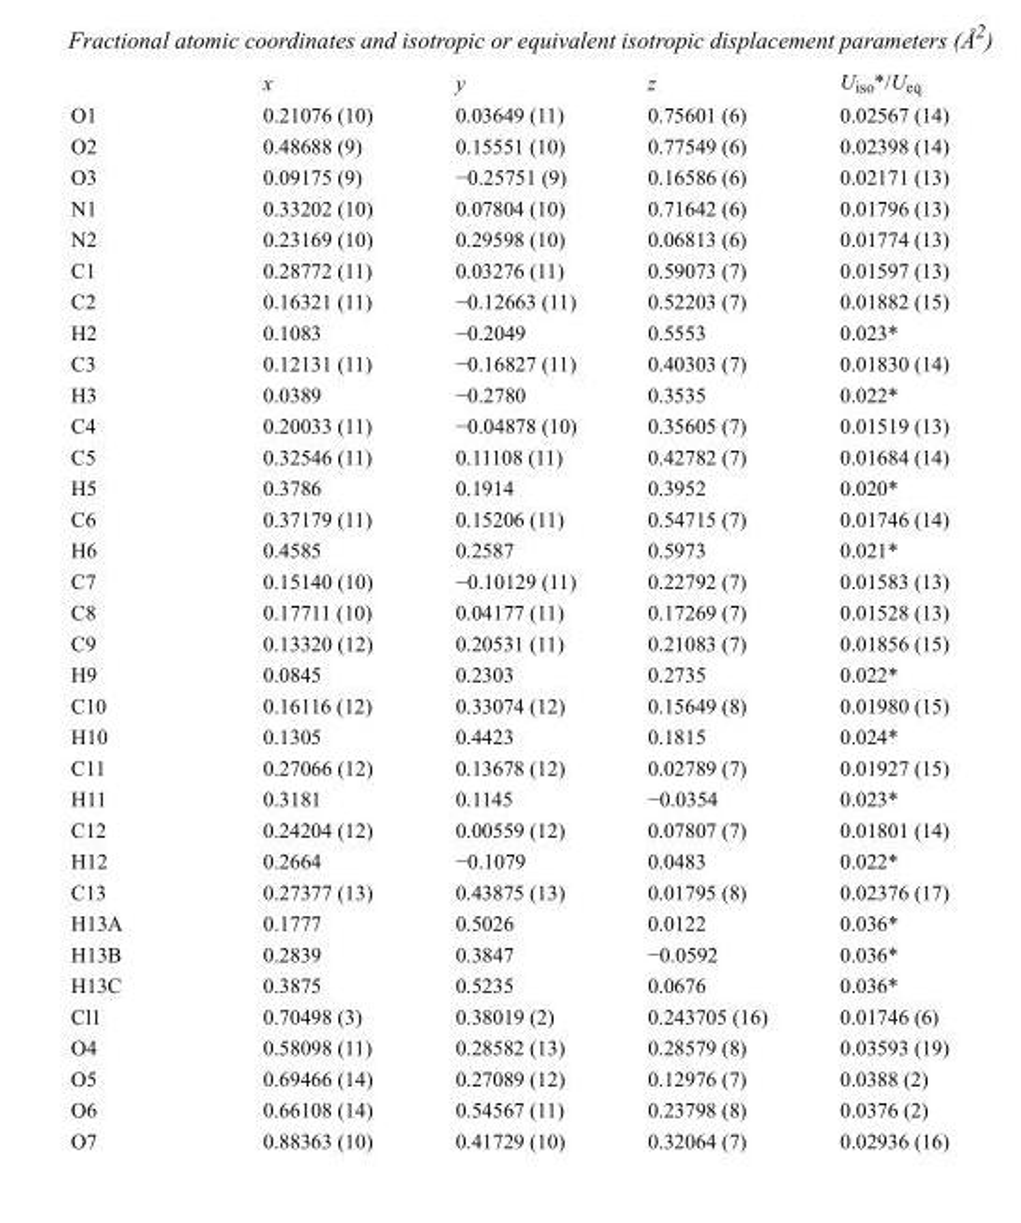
<table><thead><tr><td></td><td>x</td><td>y</td><td>z</td><td>U<sub>iso</sub>*/U<sub>eq</sub></td></tr></thead><tbody><tr><td>O1</td><td>0.21076 (10)</td><td>0.03649 (11)</td><td>0.75601 (6)</td><td>0.02567 (14)</td></tr><tr><td>O2</td><td>0.48688 (9)</td><td>0.15551 (10)</td><td>0.77549 (6)</td><td>0.02398 (14)</td></tr><tr><td>O3</td><td>0.09175 (9)</td><td>−0.25751 (9)</td><td>0.16586 (6)</td><td>0.02171 (13)</td></tr><tr><td>N1</td><td>0.33202 (10)</td><td>0.07804 (10)</td><td>0.71642 (6)</td><td>0.01796 (13)</td></tr><tr><td>N2</td><td>0.23169 (10)</td><td>0.29598 (10)</td><td>0.06813 (6)</td><td>0.01774 (13)</td></tr><tr><td>C1</td><td>0.28772 (11)</td><td>0.03276 (11)</td><td>0.59073 (7)</td><td>0.01597 (13)</td></tr><tr><td>C2</td><td>0.16321 (11)</td><td>−0.12663 (11)</td><td>0.52203 (7)</td><td>0.01882 (15)</td></tr><tr><td>H2</td><td>0.1083</td><td>−0.2049</td><td>0.5553</td><td>0.023*</td></tr><tr><td>C3</td><td>0.12131 (11)</td><td>−0.16827 (11)</td><td>0.40303 (7)</td><td>0.01830 (14)</td></tr><tr><td>H3</td><td>0.0389</td><td>−0.2780</td><td>0.3535</td><td>0.022*</td></tr><tr><td>C4</td><td>0.20033 (11)</td><td>−0.04878 (10)</td><td>0.35605 (7)</td><td>0.01519 (13)</td></tr><tr><td>C5</td><td>0.32546 (11)</td><td>0.11108 (11)</td><td>0.42782 (7)</td><td>0.01684 (14)</td></tr><tr><td>H5</td><td>0.3786</td><td>0.1914</td><td>0.3952</td><td>0.020*</td></tr><tr><td>C6</td><td>0.37179 (11)</td><td>0.15206 (11)</td><td>0.54715 (7)</td><td>0.01746 (14)</td></tr><tr><td>H6</td><td>0.4585</td><td>0.2587</td><td>0.5973</td><td>0.021*</td></tr><tr><td>C7</td><td>0.15140 (10)</td><td>−0.10129 (11)</td><td>0.22792 (7)</td><td>0.01583 (13)</td></tr><tr><td>C8</td><td>0.17711 (10)</td><td>0.04177 (11)</td><td>0.17269 (7)</td><td>0.01528 (13)</td></tr><tr><td>C9</td><td>0.13320 (12)</td><td>0.20531 (11)</td><td>0.21083 (7)</td><td>0.01856 (15)</td></tr><tr><td>H9</td><td>0.0845</td><td>0.2303</td><td>0.2735</td><td>0.022*</td></tr><tr><td>C10</td><td>0.16116 (12)</td><td>0.33074 (12)</td><td>0.15649 (8)</td><td>0.01980 (15)</td></tr><tr><td>H10</td><td>0.1305</td><td>0.4423</td><td>0.1815</td><td>0.024*</td></tr><tr><td>C11</td><td>0.27066 (12)</td><td>0.13678 (12)</td><td>0.02789 (7)</td><td>0.01927 (15)</td></tr><tr><td>H11</td><td>0.3181</td><td>0.1145</td><td>−0.0354</td><td>0.023*</td></tr><tr><td>C12</td><td>0.24204 (12)</td><td>0.00559 (12)</td><td>0.07807 (7)</td><td>0.01801 (14)</td></tr><tr><td>H12</td><td>0.2664</td><td>−0.1079</td><td>0.0483</td><td>0.022*</td></tr><tr><td>C13</td><td>0.27377 (13)</td><td>0.43875 (13)</td><td>0.01795 (8)</td><td>0.02376 (17)</td></tr><tr><td>H13A</td><td>0.1777</td><td>0.5026</td><td>0.0122</td><td>0.036*</td></tr><tr><td>H13B</td><td>0.2839</td><td>0.3847</td><td>−0.0592</td><td>0.036*</td></tr><tr><td>H13C</td><td>0.3875</td><td>0.5235</td><td>0.0676</td><td>0.036*</td></tr><tr><td>Cl1</td><td>0.70498 (3)</td><td>0.38019 (2)</td><td>0.243705 (16)</td><td>0.01746 (6)</td></tr><tr><td>O4</td><td>0.58098 (11)</td><td>0.28582 (13)</td><td>0.28579 (8)</td><td>0.03593 (19)</td></tr><tr><td>O5</td><td>0.69466 (14)</td><td>0.27089 (12)</td><td>0.12976 (7)</td><td>0.0388 (2)</td></tr><tr><td>O6</td><td>0.66108 (14)</td><td>0.54567 (11)</td><td>0.23798 (8)</td><td>0.0376 (2)</td></tr><tr><td>O7</td><td>0.88363 (10)</td><td>0.41729 (10)</td><td>0.32064 (7)</td><td>0.02936 (16)</td></tr></tbody></table>